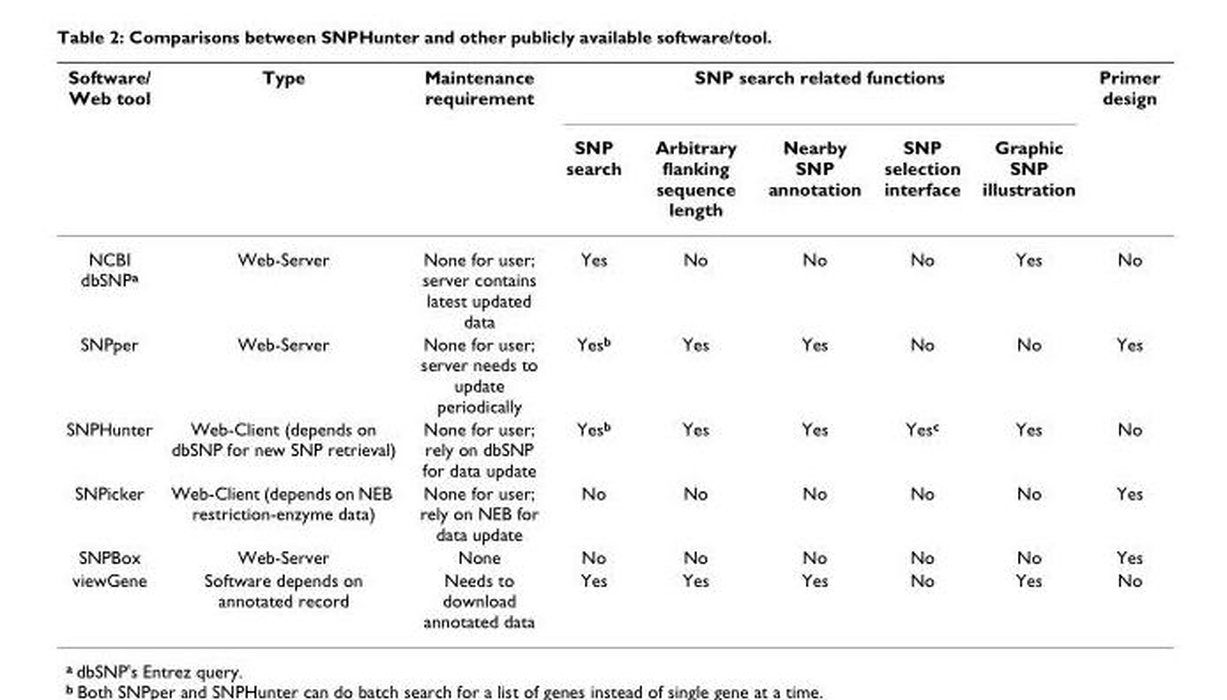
<table><thead><tr><td rowspan="2">Software/ Web tool</td><td rowspan="2">Type</td><td rowspan="2">Maintenance requirement</td><td colspan="5">SNP search related functions</td><td rowspan="2">Primer design</td></tr><tr><td>SNP search</td><td>Arbitrary flanking sequence length</td><td>Nearby SNP annotation</td><td>SNP selection interface</td><td>Graphic SNP illustration</td></tr></thead><tbody><tr><td>NCBI dbSNPa</td><td>Web-Server</td><td>None for user; server contains latest updated data</td><td>Yes</td><td>No</td><td>No</td><td>No</td><td>Yes</td><td>No</td></tr><tr><td>SNPper</td><td>Web-Server</td><td>None for user; server needs to update periodically</td><td>Yesb</td><td>Yes</td><td>Yes</td><td>No</td><td>No</td><td>Yes</td></tr><tr><td>SNPHunter</td><td>Web-Client (depends on dbSNP for new SNP retrieval)</td><td>None for user; rely on dbSNP for data update</td><td>Yesb</td><td>Yes</td><td>Yes</td><td>Yesc</td><td>Yes</td><td>No</td></tr><tr><td>SNPicker</td><td>Web-Client (depends on NEB restriction-enzyme data)</td><td>None for user; rely on NEB for data update</td><td>No</td><td>No</td><td>No</td><td>No</td><td>No</td><td>Yes</td></tr><tr><td>SNPBox</td><td>Web-Server</td><td>None</td><td>No</td><td>No</td><td>No</td><td>No</td><td>No</td><td>Yes</td></tr><tr><td>viewGene</td><td>Software depends on annotated record</td><td>Needs to download annotated data</td><td>Yes</td><td>Yes</td><td>Yes</td><td>No</td><td>Yes</td><td>No</td></tr></tbody></table>